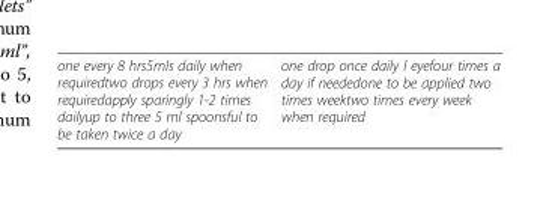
<table><tbody><tr><td>one every 8 hrs5mls daily when requiredtwo drops every 3 hrs when requiredapply sparingly 1-2 times dailyup to three 5 ml spoonsful to be taken twice a day</td><td>one drop once daily l eyefour times a day if neededone to be applied two times weektwo times every week when required</td></tr></tbody></table>